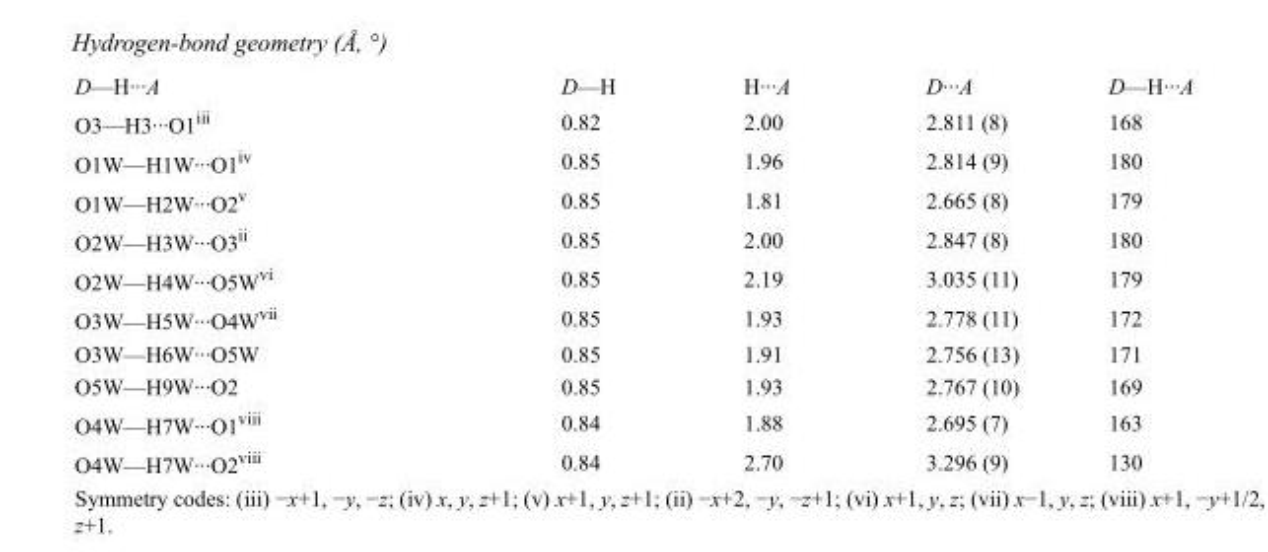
<table><tbody><tr><td>D—H···A</td><td>D—H</td><td>H···A</td><td>D···A</td><td>D—H···A</td></tr><tr><td>O3—H3···O1<sup>iii</sup></td><td>0.82</td><td>2.00</td><td>2.811 (8)</td><td>168</td></tr><tr><td>O1W—H1W···O1<sup>iv</sup></td><td>0.85</td><td>1.96</td><td>2.814 (9)</td><td>180</td></tr><tr><td>O1W—H2W···O2<sup>v</sup></td><td>0.85</td><td>1.81</td><td>2.665 (8)</td><td>179</td></tr><tr><td>O2W—H3W···O3<sup>ii</sup></td><td>0.85</td><td>2.00</td><td>2.847 (8)</td><td>180</td></tr><tr><td>O2W—H4W···O5W<sup>vi</sup></td><td>0.85</td><td>2.19</td><td>3.035 (11)</td><td>179</td></tr><tr><td>O3W—H5W···O4W<sup>vii</sup></td><td>0.85</td><td>1.93</td><td>2.778 (11)</td><td>172</td></tr><tr><td>O3W—H6W···O5W</td><td>0.85</td><td>1.91</td><td>2.756 (13)</td><td>171</td></tr><tr><td>O5W—H9W···O2</td><td>0.85</td><td>1.93</td><td>2.767 (10)</td><td>169</td></tr><tr><td>O4W—H7W···O1<sup>viii</sup></td><td>0.84</td><td>1.88</td><td>2.695 (7)</td><td>163</td></tr><tr><td>O4W—H7W···O2<sup>viii</sup></td><td>0.84</td><td>2.70</td><td>3.296 (9)</td><td>130</td></tr></tbody></table>